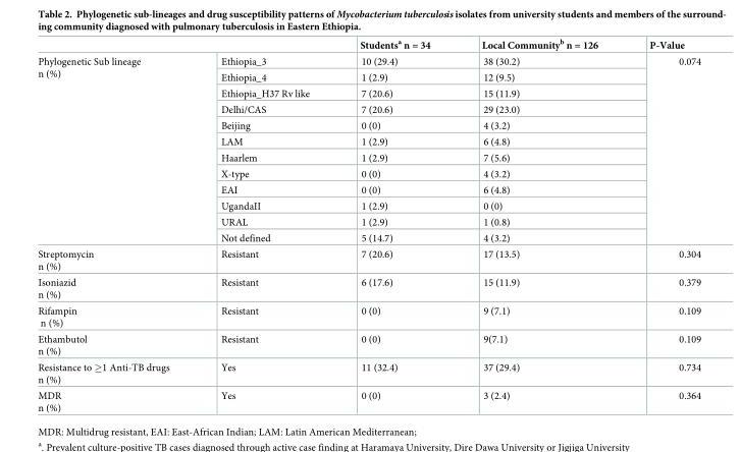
<table><thead><tr><td></td><td></td><td>Students<sup>a</sup> n = 34</td><td>Local Community<sup>b</sup> n = 126</td><td>P-Value</td></tr></thead><tbody><tr><td rowspan="12">Phylogenetic Sub lineage n (%)</td><td>Ethiopia_3</td><td>10 (29.4)</td><td>38 (30.2)</td><td rowspan="12">0.074</td></tr><tr><td>Ethiopia_4</td><td>1 (2.9)</td><td>12 (9.5)</td></tr><tr><td>Ethiopia_H37 Rv like</td><td>7 (20.6)</td><td>15 (11.9)</td></tr><tr><td>Delhi/CAS</td><td>7 (20.6)</td><td>29 (23.0)</td></tr><tr><td>Beijing</td><td>0 (0)</td><td>4 (3.2)</td></tr><tr><td>LAM</td><td>1 (2.9)</td><td>6 (4.8)</td></tr><tr><td>Haarlem</td><td>1 (2.9)</td><td>7 (5.6)</td></tr><tr><td>X-type</td><td>0 (0)</td><td>4 (3.2)</td></tr><tr><td>EAI</td><td>0 (0)</td><td>6 (4.8)</td></tr><tr><td>UgandaII</td><td>1 (2.9)</td><td>0 (0)</td></tr><tr><td>URAL</td><td>1 (2.9)</td><td>1 (0.8)</td></tr><tr><td>Not defined</td><td>5 (14.7)</td><td>4 (3.2)</td></tr><tr><td>Streptomycin n (%)</td><td>Resistant</td><td>7 (20.6)</td><td>17 (13.5)</td><td>0.304</td></tr><tr><td>Isoniazid n (%)</td><td>Resistant</td><td>6 (17.6)</td><td>15 (11.9)</td><td>0.379</td></tr><tr><td>Rifampin n (%)</td><td>Resistant</td><td>0 (0)</td><td>9 (7.1)</td><td>0.109</td></tr><tr><td>Ethambutol n (%)</td><td>Resistant</td><td>0 (0)</td><td>9(7.1)</td><td>0.109</td></tr><tr><td>Resistance to ≥1 Anti-TB drugs n (%)</td><td>Yes</td><td>11 (32.4)</td><td>37 (29.4)</td><td>0.734</td></tr><tr><td>MDR n (%)</td><td>Yes</td><td>0 (0)</td><td>3 (2.4)</td><td>0.364</td></tr></tbody></table>